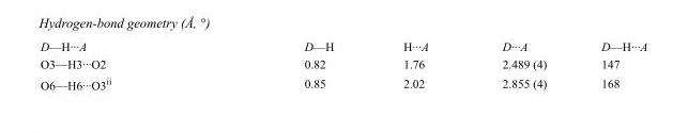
<table><tbody><tr><td>D—H···A</td><td>D—H</td><td>H···A</td><td>D···A</td><td>D—H···A</td></tr><tr><td>O3—H3···O2</td><td>0.82</td><td>1.76</td><td>2.489 (4)</td><td>147</td></tr><tr><td>O6—H6···O3<sup>ii</sup></td><td>0.85</td><td>2.02</td><td>2.855 (4)</td><td>168</td></tr></tbody></table>